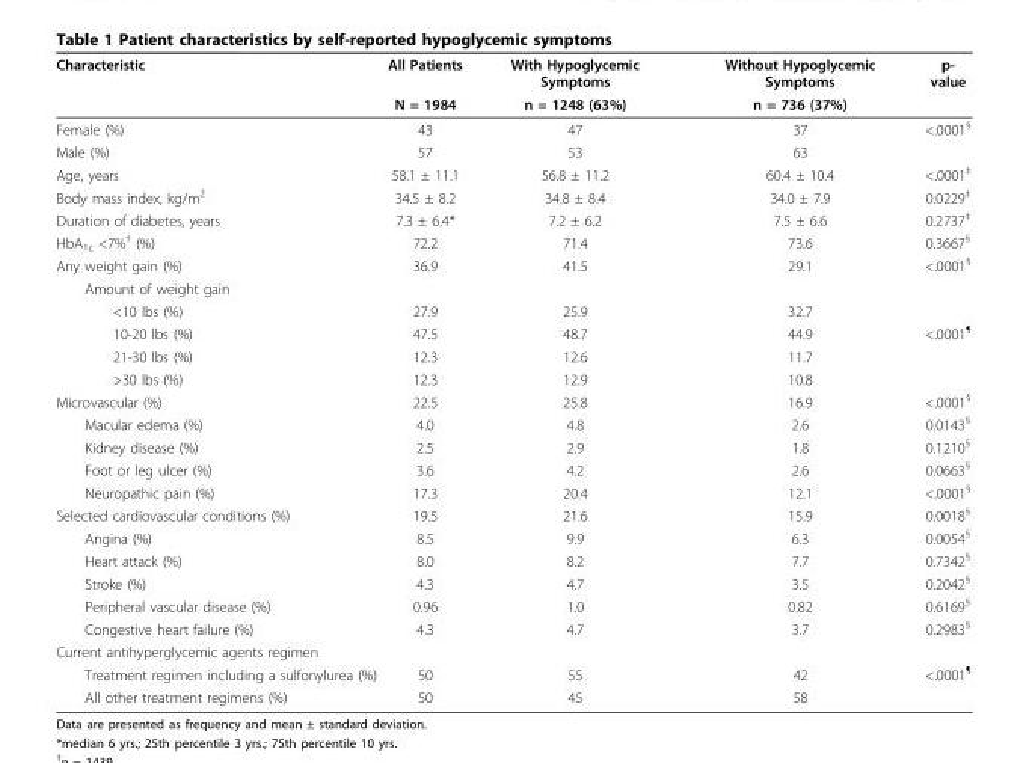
<table><thead><tr><td rowspan="2">Characteristic</td><td rowspan="2">All Patients N = 1984</td><td rowspan="2">With Hypoglycemic Symptoms n = 1248 (63%)</td><td rowspan="2">Without Hypoglycemic Symptoms n = 736 (37%)</td><td rowspan="2">p- value</td></tr><tr></tr></thead><tbody><tr><td>Female (%)</td><td>43</td><td>47</td><td>37</td><td>&lt;.0001<sup>§</sup></td></tr><tr><td>Male (%)</td><td>57</td><td>53</td><td>63</td><td></td></tr><tr><td>Age, years</td><td>58.1 ± 11.1</td><td>56.8 ± 11.2</td><td>60.4 ± 10.4</td><td>&lt;.0001<sup>‡</sup></td></tr><tr><td>Body mass index, kg/m<sup>2</sup></td><td>34.5 ± 8.2</td><td>34.8 ± 8.4</td><td>34.0 ± 7.9</td><td>0.0229<sup>‡</sup></td></tr><tr><td>Duration of diabetes, years</td><td>7.3 ± 6.4*</td><td>7.2 ± 6.2</td><td>7.5 ± 6.6</td><td>0.2737<sup>‡</sup></td></tr><tr><td>HbA<sub>1c</sub> &lt;7%<sup>†</sup> (%)</td><td>72.2</td><td>71.4</td><td>73.6</td><td>0.3667<sup>§</sup></td></tr><tr><td>Any weight gain (%)</td><td>36.9</td><td>41.5</td><td>29.1</td><td>&lt;.0001<sup>§</sup></td></tr><tr><td colspan="5">Amount of weight gain</td></tr><tr><td>&lt;10 lbs (%)</td><td>27.9</td><td>25.9</td><td>32.7</td><td></td></tr><tr><td>10-20 lbs (%)</td><td>47.5</td><td>48.7</td><td>44.9</td><td>&lt;.0001<sup>¶</sup></td></tr><tr><td>21-30 lbs (%)</td><td>12.3</td><td>12.6</td><td>11.7</td><td></td></tr><tr><td>&gt;30 lbs (%)</td><td>12.3</td><td>12.9</td><td>10.8</td><td></td></tr><tr><td>Microvascular (%)</td><td>22.5</td><td>25.8</td><td>16.9</td><td>&lt;.0001<sup>§</sup></td></tr><tr><td>Macular edema (%)</td><td>4.0</td><td>4.8</td><td>2.6</td><td>0.0143<sup>§</sup></td></tr><tr><td>Kidney disease (%)</td><td>2.5</td><td>2.9</td><td>1.8</td><td>0.1210<sup>§</sup></td></tr><tr><td>Foot or leg ulcer (%)</td><td>3.6</td><td>4.2</td><td>2.6</td><td>0.0663<sup>§</sup></td></tr><tr><td>Neuropathic pain (%)</td><td>17.3</td><td>20.4</td><td>12.1</td><td>&lt;.0001<sup>§</sup></td></tr><tr><td>Selected cardiovascular conditions (%)</td><td>19.5</td><td>21.6</td><td>15.9</td><td>0.0018<sup>§</sup></td></tr><tr><td>Angina (%)</td><td>8.5</td><td>9.9</td><td>6.3</td><td>0.0054<sup>§</sup></td></tr><tr><td>Heart attack (%)</td><td>8.0</td><td>8.2</td><td>7.7</td><td>0.7342<sup>§</sup></td></tr><tr><td>Stroke (%)</td><td>4.3</td><td>4.7</td><td>3.5</td><td>0.2042<sup>§</sup></td></tr><tr><td>Peripheral vascular disease (%)</td><td>0.96</td><td>1.0</td><td>0.82</td><td>0.6169<sup>§</sup></td></tr><tr><td>Congestive heart failure (%)</td><td>4.3</td><td>4.7</td><td>3.7</td><td>0.2983<sup>§</sup></td></tr><tr><td colspan="5">Current antihyperglycemic agents regimen</td></tr><tr><td>Treatment regimen including a sulfonylurea (%)</td><td>50</td><td>55</td><td>42</td><td>&lt;.0001<sup>¶</sup></td></tr><tr><td>All other treatment regimens (%)</td><td>50</td><td>45</td><td>58</td><td></td></tr></tbody></table>